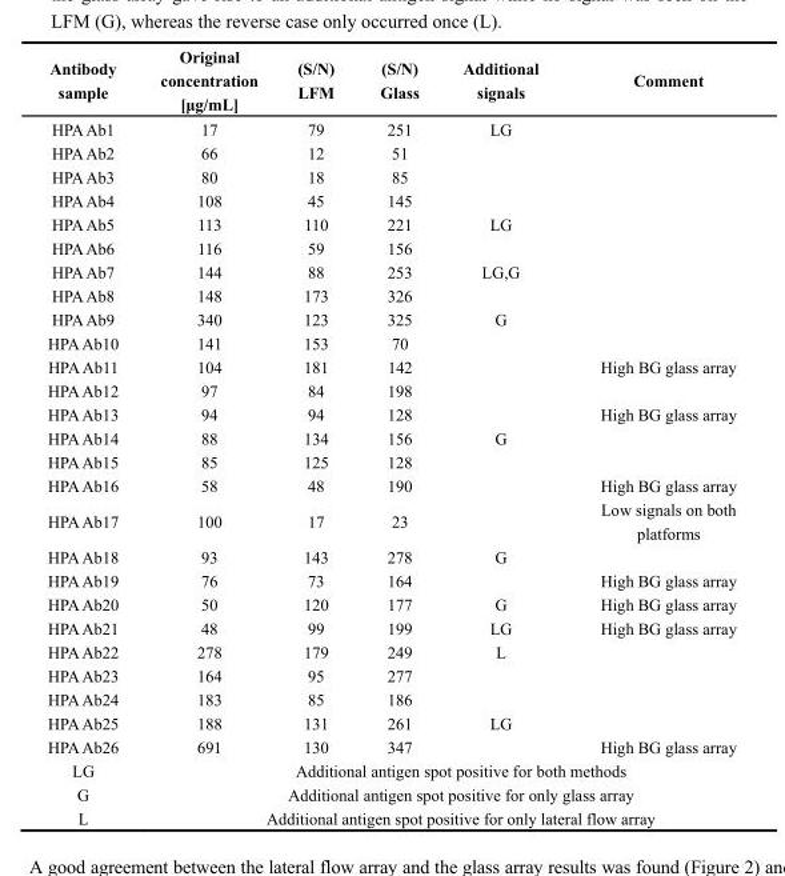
<table><thead><tr><td>Antibody sample</td><td>Original concentration [μg/mL]</td><td>(S/N) LFM</td><td>(S/N) Glass</td><td>Additional signals</td><td>Comment</td></tr></thead><tbody><tr><td>HPA Ab1</td><td>17</td><td>79</td><td>251</td><td>LG</td><td></td></tr><tr><td>HPA Ab2</td><td>66</td><td>12</td><td>51</td><td></td><td></td></tr><tr><td>HPA Ab3</td><td>80</td><td>18</td><td>85</td><td></td><td></td></tr><tr><td>HPA Ab4</td><td>108</td><td>45</td><td>145</td><td></td><td></td></tr><tr><td>HPA Ab5</td><td>113</td><td>110</td><td>221</td><td>LG</td><td></td></tr><tr><td>HPA Ab6</td><td>116</td><td>59</td><td>156</td><td></td><td></td></tr><tr><td>HPA Ab7</td><td>144</td><td>88</td><td>253</td><td>LG,G</td><td></td></tr><tr><td>HPA Ab8</td><td>148</td><td>173</td><td>326</td><td></td><td></td></tr><tr><td>HPA Ab9</td><td>340</td><td>123</td><td>325</td><td>G</td><td></td></tr><tr><td>HPA Ab10</td><td>141</td><td>153</td><td>70</td><td></td><td></td></tr><tr><td>HPA Ab11</td><td>104</td><td>181</td><td>142</td><td></td><td>High BG glass array</td></tr><tr><td>HPA Ab12</td><td>97</td><td>84</td><td>198</td><td></td><td></td></tr><tr><td>HPA Ab13</td><td>94</td><td>94</td><td>128</td><td></td><td>High BG glass array</td></tr><tr><td>HPA Ab14</td><td>88</td><td>134</td><td>156</td><td>G</td><td></td></tr><tr><td>HPA Ab15</td><td>85</td><td>125</td><td>128</td><td></td><td></td></tr><tr><td>HPA Ab16</td><td>58</td><td>48</td><td>190</td><td></td><td>High BG glass array</td></tr><tr><td>HPA Ab17</td><td>100</td><td>17</td><td>23</td><td></td><td>Low signals on both platforms</td></tr><tr><td>HPA Ab18</td><td>93</td><td>143</td><td>278</td><td>G</td><td></td></tr><tr><td>HPA Ab19</td><td>76</td><td>73</td><td>164</td><td></td><td>High BG glass array</td></tr><tr><td>HPA Ab20</td><td>50</td><td>120</td><td>177</td><td>G</td><td>High BG glass array</td></tr><tr><td>HPA Ab21</td><td>48</td><td>99</td><td>199</td><td>LG</td><td>High BG glass array</td></tr><tr><td>HPA Ab22</td><td>278</td><td>179</td><td>249</td><td>L</td><td></td></tr><tr><td>HPA Ab23</td><td>164</td><td>95</td><td>277</td><td></td><td></td></tr><tr><td>HPA Ab24</td><td>183</td><td>85</td><td>186</td><td></td><td></td></tr><tr><td>HPA Ab25</td><td>188</td><td>131</td><td>261</td><td>LG</td><td></td></tr><tr><td>HPA Ab26</td><td>691</td><td>130</td><td>347</td><td></td><td>High BG glass array</td></tr><tr><td>LG</td><td colspan="5">Additional antigen spot positive for both methods</td></tr><tr><td>G</td><td colspan="5">Additional antigen spot positive for only glass array</td></tr><tr><td>L</td><td colspan="5">Additional antigen spot positive for only lateral flow array</td></tr></tbody></table>